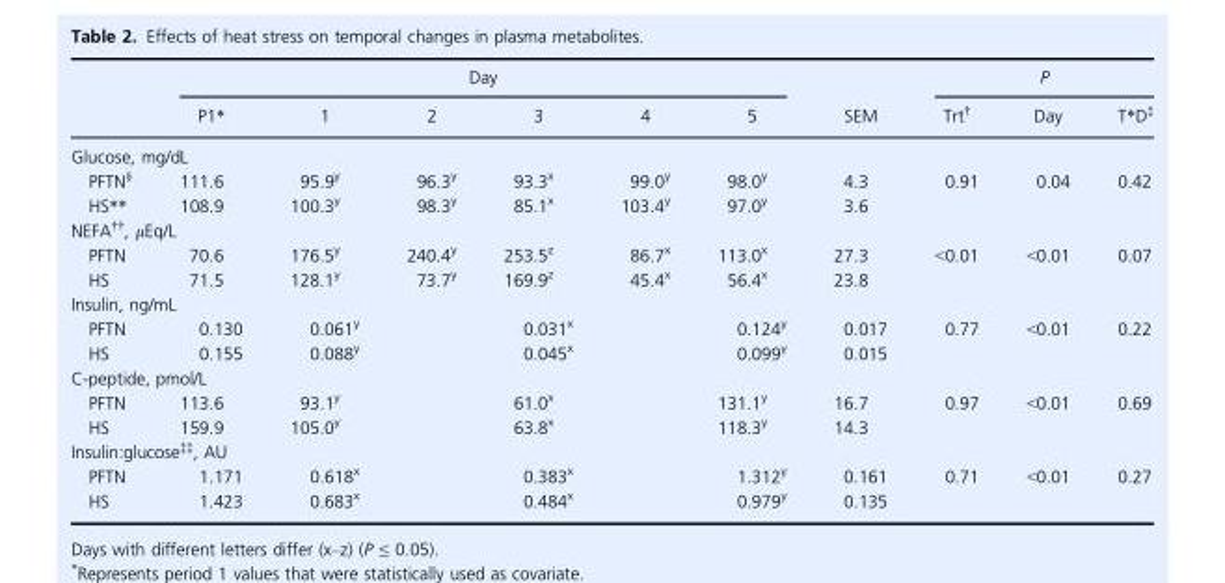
<table><thead><tr><td rowspan="2"></td><td colspan="6">Day</td><td rowspan="2">SEM</td><td colspan="3">P</td></tr><tr><td>P1*</td><td>1</td><td>2</td><td>3</td><td>4</td><td>5</td><td>Trt†</td><td>Day</td><td>T*D‡</td></tr></thead><tbody><tr><td colspan="11">Glucose, mg/dL</td></tr><tr><td>PFTN§</td><td>111.6</td><td>95.9<sup>y</sup></td><td>96.3<sup>y</sup></td><td>93.3<sup>x</sup></td><td>99.0<sup>y</sup></td><td>98.0<sup>y</sup></td><td>4.3</td><td rowspan="2">0.91</td><td rowspan="2">0.04</td><td rowspan="2">0.42</td></tr><tr><td>HS**</td><td>108.9</td><td>100.3<sup>y</sup></td><td>98.3<sup>y</sup></td><td>85.1<sup>x</sup></td><td>103.4<sup>y</sup></td><td>97.0<sup>y</sup></td><td>3.6</td></tr><tr><td colspan="11">NEFA††, μEq/L</td></tr><tr><td>PFTN</td><td>70.6</td><td>176.5<sup>y</sup></td><td>240.4<sup>y</sup></td><td>253.5<sup>z</sup></td><td>86.7<sup>x</sup></td><td>113.0<sup>x</sup></td><td>27.3</td><td rowspan="2">&lt;0.01</td><td rowspan="2">&lt;0.01</td><td rowspan="2">0.07</td></tr><tr><td>HS</td><td>71.5</td><td>128.1<sup>y</sup></td><td>73.7<sup>y</sup></td><td>169.9<sup>z</sup></td><td>45.4<sup>x</sup></td><td>56.4<sup>x</sup></td><td>23.8</td></tr><tr><td colspan="11">Insulin, ng/mL</td></tr><tr><td>PFTN</td><td>0.130</td><td>0.061<sup>y</sup></td><td></td><td>0.031<sup>x</sup></td><td></td><td>0.124<sup>y</sup></td><td>0.017</td><td rowspan="2">0.77</td><td rowspan="2">&lt;0.01</td><td rowspan="2">0.22</td></tr><tr><td>HS</td><td>0.155</td><td>0.088<sup>y</sup></td><td></td><td>0.045<sup>x</sup></td><td></td><td>0.099<sup>y</sup></td><td>0.015</td></tr><tr><td colspan="11">C-peptide, pmol/L</td></tr><tr><td>PFTN</td><td>113.6</td><td>93.1<sup>y</sup></td><td></td><td>61.0<sup>x</sup></td><td></td><td>131.1<sup>y</sup></td><td>16.7</td><td rowspan="2">0.97</td><td rowspan="2">&lt;0.01</td><td rowspan="2">0.69</td></tr><tr><td>HS</td><td>159.9</td><td>105.0<sup>y</sup></td><td></td><td>63.8<sup>x</sup></td><td></td><td>118.3<sup>y</sup></td><td>14.3</td></tr><tr><td colspan="11">Insulin:glucose‡‡, AU</td></tr><tr><td>PFTN</td><td>1.171</td><td>0.618<sup>x</sup></td><td></td><td>0.383<sup>x</sup></td><td></td><td>1.312<sup>y</sup></td><td>0.161</td><td rowspan="2">0.71</td><td rowspan="2">&lt;0.01</td><td rowspan="2">0.27</td></tr><tr><td>HS</td><td>1.423</td><td>0.683<sup>x</sup></td><td></td><td>0.484<sup>x</sup></td><td></td><td>0.979<sup>y</sup></td><td>0.135</td></tr></tbody></table>